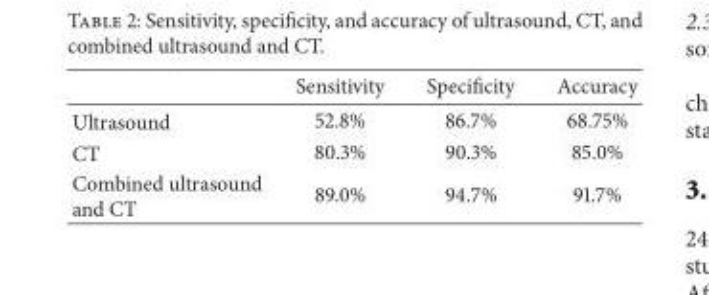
<table><thead><tr><td></td><td>Sensitivity</td><td>Specificity</td><td>Accuracy</td></tr></thead><tbody><tr><td>Ultrasound</td><td>52.8%</td><td>86.7%</td><td>68.75%</td></tr><tr><td>CT</td><td>80.3%</td><td>90.3%</td><td>85.0%</td></tr><tr><td>Combined ultrasound and CT</td><td>89.0%</td><td>94.7%</td><td>91.7%</td></tr></tbody></table>